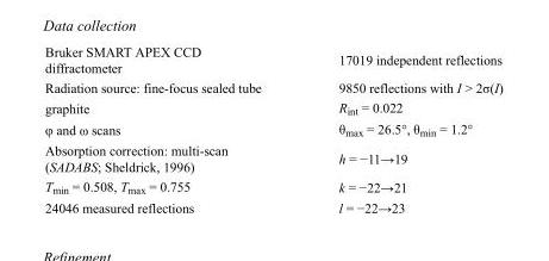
<table><tbody><tr><td>Bruker SMART APEX CCD diffractometer</td><td>17019 independent reflections</td></tr><tr><td>Radiation source: fine-focus sealed tube</td><td>9850 reflections with I &gt; 2σ(I)</td></tr><tr><td>graphite</td><td>R<sub>int</sub> = 0.022</td></tr><tr><td>φ and ω scans</td><td>θ<sub>max</sub> = 26.5°, θ<sub>min</sub> = 1.2°</td></tr><tr><td>Absorption correction: multi-scan (SADABS; Sheldrick, 1996)</td><td>h = −11→19</td></tr><tr><td>Tmin = 0.508, Tmax = 0.755</td><td>k = −22→21</td></tr><tr><td>24046 measured reflections</td><td>l = −22→23</td></tr></tbody></table>